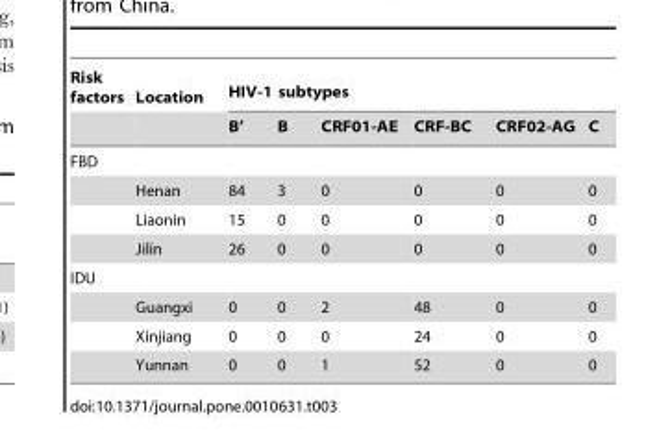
<table><thead><tr><td rowspan="2">Risk factors</td><td rowspan="2">Location</td><td colspan="6">HIV-1 subtypes</td></tr><tr><td>B’</td><td>B</td><td>CRF01-AE</td><td>CRF-BC</td><td>CRF02-AG</td><td>C</td></tr></thead><tbody><tr><td colspan="8">FBD</td></tr><tr><td></td><td>Henan</td><td>84</td><td>3</td><td>0</td><td>0</td><td>0</td><td>0</td></tr><tr><td></td><td>Liaonin</td><td>15</td><td>0</td><td>0</td><td>0</td><td>0</td><td>0</td></tr><tr><td></td><td>Jilin</td><td>26</td><td>0</td><td>0</td><td>0</td><td>0</td><td>0</td></tr><tr><td colspan="8">IDU</td></tr><tr><td></td><td>Guangxi</td><td>0</td><td>0</td><td>2</td><td>48</td><td>0</td><td>0</td></tr><tr><td></td><td>Xinjiang</td><td>0</td><td>0</td><td>0</td><td>24</td><td>0</td><td>0</td></tr><tr><td></td><td>Yunnan</td><td>0</td><td>0</td><td>1</td><td>52</td><td>0</td><td>0</td></tr></tbody></table>